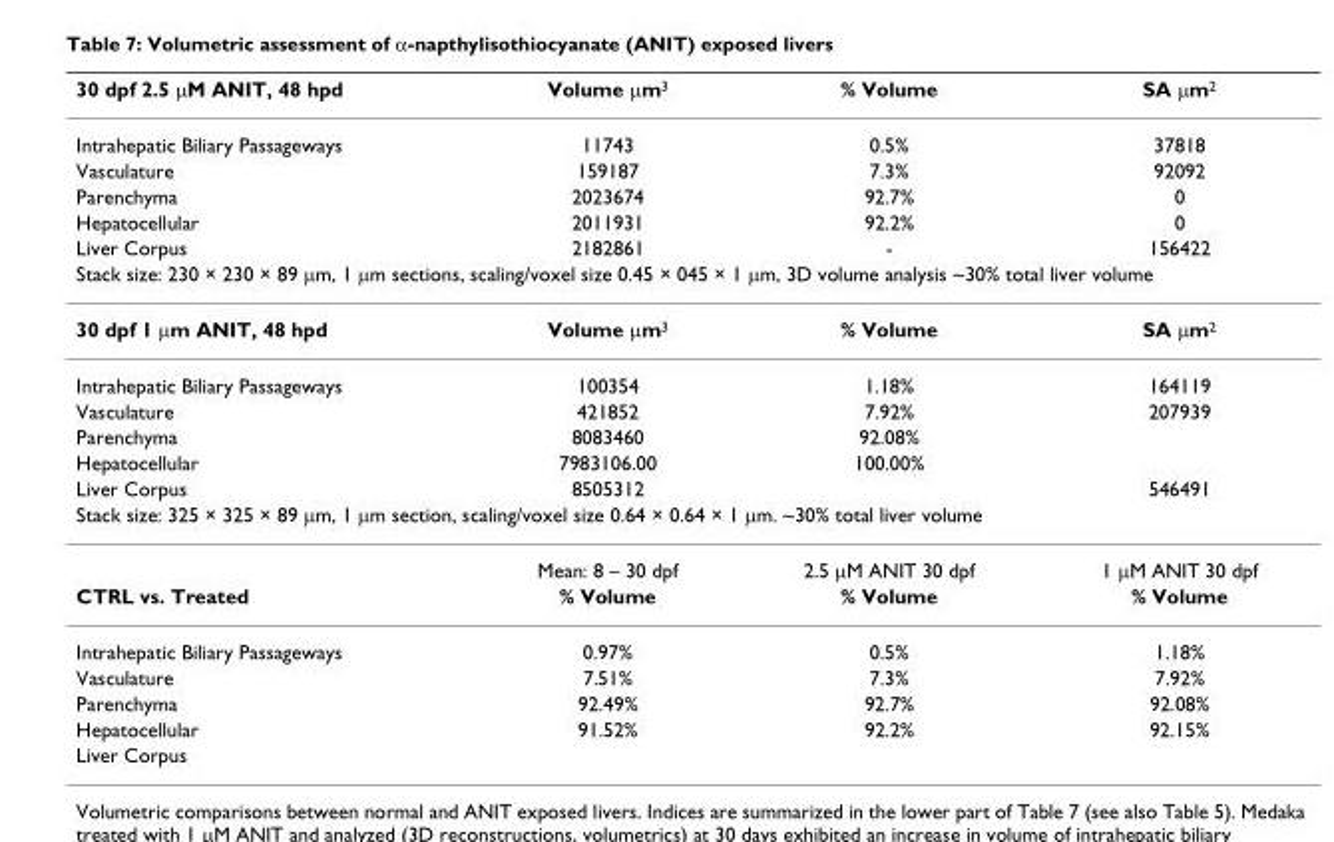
<table><thead><tr><td>30 dpf 2.5 μM ANIT, 48 hpd</td><td>Volume μm<sup>3</sup></td><td>% Volume</td><td>SA μm<sup>2</sup></td></tr></thead><tbody><tr><td>Intrahepatic Biliary Passageways</td><td>11743</td><td>0.5%</td><td>37818</td></tr><tr><td>Vasculature</td><td>159187</td><td>7.3%</td><td>92092</td></tr><tr><td>Parenchyma</td><td>2023674</td><td>92.7%</td><td>0</td></tr><tr><td>Hepatocellular</td><td>2011931</td><td>92.2%</td><td>0</td></tr><tr><td>Liver Corpus</td><td>2182861</td><td>-</td><td>156422</td></tr><tr><td colspan="4">Stack size: 230 × 230 × 89 μm, 1 μm sections, scaling/voxel size 0.45 × 045 × 1 μm, 3D volume analysis ~30% total liver volume</td></tr><tr><td>30 dpf 1 μm ANIT, 48 hpd</td><td>Volume μm<sup>3</sup></td><td>% Volume</td><td>SA μm<sup>2</sup></td></tr><tr><td>Intrahepatic Biliary Passageways</td><td>100354</td><td>1.18%</td><td>164119</td></tr><tr><td>Vasculature</td><td>421852</td><td>7.92%</td><td>207939</td></tr><tr><td>Parenchyma</td><td>8083460</td><td>92.08%</td><td></td></tr><tr><td>Hepatocellular</td><td>7983106.00</td><td>100.00%</td><td></td></tr><tr><td>Liver Corpus</td><td>8505312</td><td></td><td>546491</td></tr><tr><td colspan="4">Stack size: 325 × 325 × 89 μm, 1 μm section, scaling/voxel size 0.64 × 0.64 × 1 μm. ~30% total liver volume</td></tr><tr><td></td><td>Mean: 8 – 30 dpf</td><td>2.5 μM ANIT 30 dpf</td><td>1 μM ANIT 30 dpf</td></tr><tr><td>CTRL vs. Treated</td><td>% Volume</td><td>% Volume</td><td>% Volume</td></tr><tr><td>Intrahepatic Biliary Passageways</td><td>0.97%</td><td>0.5%</td><td>1.18%</td></tr><tr><td>Vasculature</td><td>7.51%</td><td>7.3%</td><td>7.92%</td></tr><tr><td>Parenchyma</td><td>92.49%</td><td>92.7%</td><td>92.08%</td></tr><tr><td>Hepatocellular</td><td>91.52%</td><td>92.2%</td><td>92.15%</td></tr><tr><td>Liver Corpus</td><td></td><td></td><td></td></tr></tbody></table>